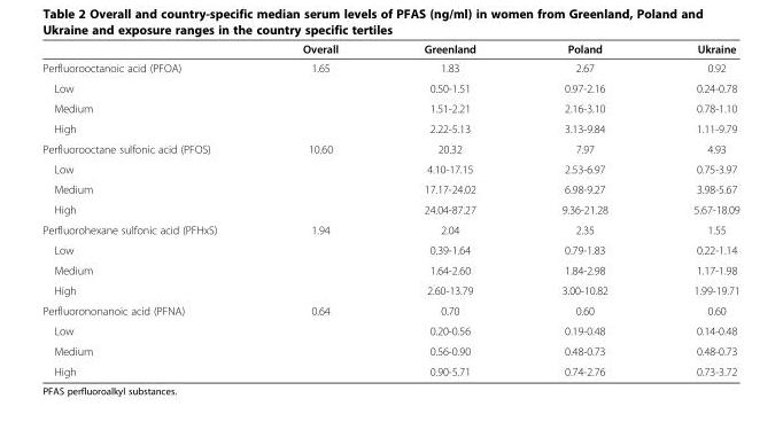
<table><thead><tr><td></td><td>Overall</td><td>Greenland</td><td>Poland</td><td>Ukraine</td></tr></thead><tbody><tr><td>Perfluorooctanoic acid (PFOA)</td><td>1.65</td><td>1.83</td><td>2.67</td><td>0.92</td></tr><tr><td>Low</td><td></td><td>0.50-1.51</td><td>0.97-2.16</td><td>0.24-0.78</td></tr><tr><td>Medium</td><td></td><td>1.51-2.21</td><td>2.16-3.10</td><td>0.78-1.10</td></tr><tr><td>High</td><td></td><td>2.22-5.13</td><td>3.13-9.84</td><td>1.11-9.79</td></tr><tr><td>Perfluorooctane sulfonic acid (PFOS)</td><td>10.60</td><td>20.32</td><td>7.97</td><td>4.93</td></tr><tr><td>Low</td><td></td><td>4.10-17.15</td><td>2.53-6.97</td><td>0.75-3.97</td></tr><tr><td>Medium</td><td></td><td>17.17-24.02</td><td>6.98-9.27</td><td>3.98-5.67</td></tr><tr><td>High</td><td></td><td>24.04-87.27</td><td>9.36-21.28</td><td>5.67-18.09</td></tr><tr><td>Perfluorohexane sulfonic acid (PFHxS)</td><td>1.94</td><td>2.04</td><td>2.35</td><td>1.55</td></tr><tr><td>Low</td><td></td><td>0.39-1.64</td><td>0.79-1.83</td><td>0.22-1.14</td></tr><tr><td>Medium</td><td></td><td>1.64-2.60</td><td>1.84-2.98</td><td>1.17-1.98</td></tr><tr><td>High</td><td></td><td>2.60-13.79</td><td>3.00-10.82</td><td>1.99-19.71</td></tr><tr><td>Perfluorononanoic acid (PFNA)</td><td>0.64</td><td>0.70</td><td>0.60</td><td>0.60</td></tr><tr><td>Low</td><td></td><td>0.20-0.56</td><td>0.19-0.48</td><td>0.14-0.48</td></tr><tr><td>Medium</td><td></td><td>0.56-0.90</td><td>0.48-0.73</td><td>0.48-0.73</td></tr><tr><td>High</td><td></td><td>0.90-5.71</td><td>0.74-2.76</td><td>0.73-3.72</td></tr></tbody></table>